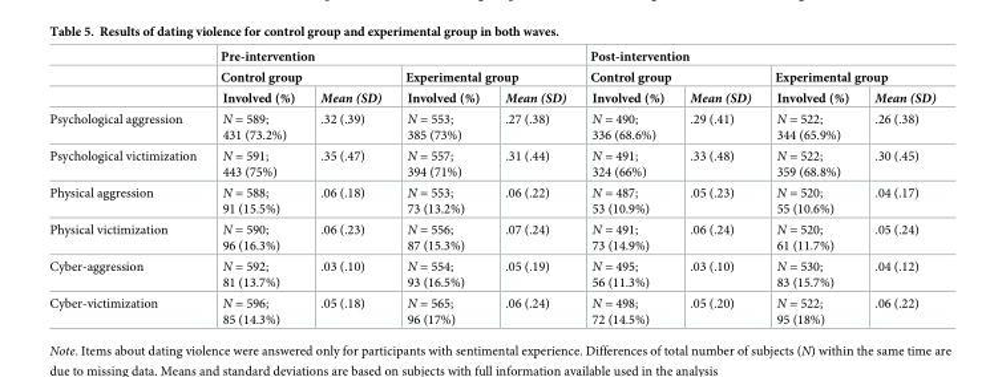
<table><thead><tr><td rowspan="3"></td><td colspan="4">Pre-intervention</td><td colspan="4">Post-intervention</td></tr><tr><td colspan="2">Control group</td><td colspan="2">Experimental group</td><td colspan="2">Control group</td><td colspan="2">Experimental group</td></tr><tr><td>Involved (%)</td><td>Mean (SD)</td><td>Involved (%)</td><td>Mean (SD)</td><td>Involved (%)</td><td>Mean (SD)</td><td>Involved (%)</td><td>Mean (SD)</td></tr></thead><tbody><tr><td>Psychological aggression</td><td>N = 589; 431 (73.2%)</td><td>.32 (.39)</td><td>N = 553; 385 (73%)</td><td>.27 (.38)</td><td>N = 490; 336 (68.6%)</td><td>.29 (.41)</td><td>N = 522; 344 (65.9%)</td><td>.26 (.38)</td></tr><tr><td>Psychological victimization</td><td>N = 591; 443 (75%)</td><td>.35 (.47)</td><td>N = 557; 394 (71%)</td><td>.31 (.44)</td><td>N = 491; 324 (66%)</td><td>.33 (.48)</td><td>N = 522; 359 (68.8%)</td><td>.30 (.45)</td></tr><tr><td>Physical aggression</td><td>N = 588; 91 (15.5%)</td><td>.06 (.18)</td><td>N = 553; 73 (13.2%)</td><td>.06 (.22)</td><td>N = 487; 53 (10.9%)</td><td>.05 (.23)</td><td>N = 520; 55 (10.6%)</td><td>.04 (.17)</td></tr><tr><td>Physical victimization</td><td>N = 590; 96 (16.3%)</td><td>.06 (.23)</td><td>N = 556; 87 (15.3%)</td><td>.07 (.24)</td><td>N = 491; 73 (14.9%)</td><td>.06 (.24)</td><td>N = 520; 61 (11.7%)</td><td>.05 (.24)</td></tr><tr><td>Cyber-aggression</td><td>N = 592; 81 (13.7%)</td><td>.03 (.10)</td><td>N = 554; 93 (16.5%)</td><td>.05 (.19)</td><td>N = 495; 56 (11.3%)</td><td>.03 (.10)</td><td>N = 530; 83 (15.7%)</td><td>.04 (.12)</td></tr><tr><td>Cyber-victimization</td><td>N = 596; 85 (14.3%)</td><td>.05 (.18)</td><td>N = 565; 96 (17%)</td><td>.06 (.24)</td><td>N = 498; 72 (14.5%)</td><td>.05 (.20)</td><td>N = 522; 95 (18%)</td><td>.06 (.22)</td></tr></tbody></table>